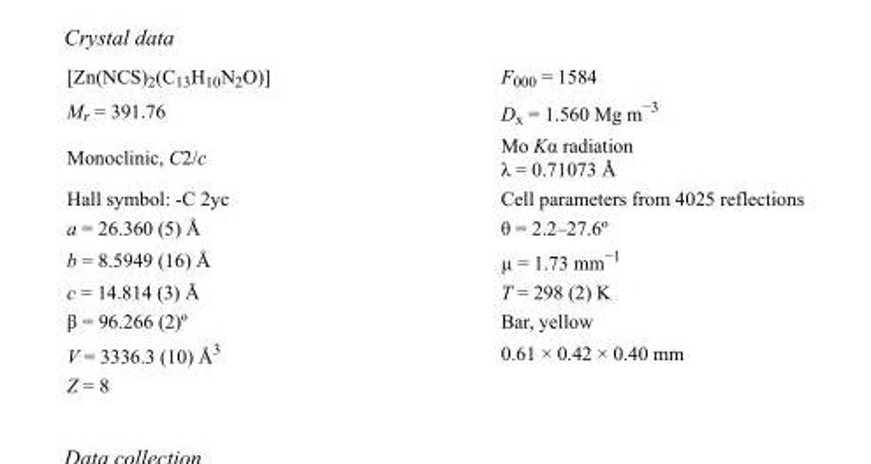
<table><tbody><tr><td>[Zn(NCS)<sub>2</sub>(C<sub>13</sub>H<sub>10</sub>N<sub>2</sub>O)]</td><td>F<sub>000</sub> = 1584</td></tr><tr><td>M<sub>r</sub> = 391.76</td><td>D<sub>x</sub> = 1.560 Mg m<sup>−3</sup></td></tr><tr><td>Monoclinic, C2/c</td><td>Mo Kα radiation λ = 0.71073 Å</td></tr><tr><td>Hall symbol: -C 2yc</td><td>Cell parameters from 4025 reflections</td></tr><tr><td>a = 26.360 (5) Å</td><td>θ = 2.2–27.6º</td></tr><tr><td>b = 8.5949 (16) Å</td><td>µ = 1.73 mm<sup>−1</sup></td></tr><tr><td>c = 14.814 (3) Å</td><td>T = 298 (2) K</td></tr><tr><td>β = 96.266 (2)º</td><td>Bar, yellow</td></tr><tr><td>V = 3336.3 (10) Å<sup>3</sup></td><td>0.61 × 0.42 × 0.40 mm</td></tr><tr><td>Z = 8</td><td></td></tr></tbody></table>